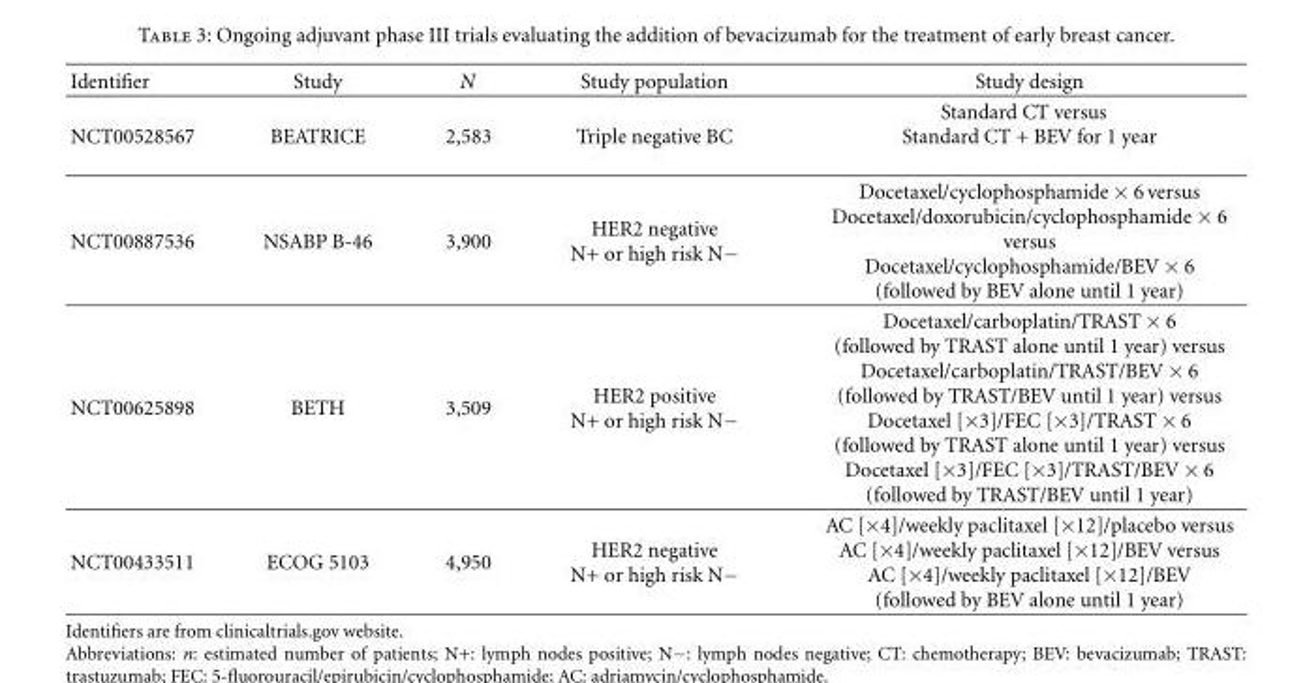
<table><thead><tr><td>Identifier</td><td>Study</td><td>N</td><td>Study population</td><td>Study design</td></tr></thead><tbody><tr><td>NCT00528567</td><td>BEATRICE</td><td>2,583</td><td>Triple negative BC</td><td>Standard CT versus Standard CT + BEV for 1 year</td></tr><tr><td>NCT00887536</td><td>NSABP B-46</td><td>3,900</td><td>HER2 negative N+ or high risk N−</td><td>Docetaxel/cyclophosphamide × 6 versus Docetaxel/doxorubicin/cyclophosphamide × 6 versus Docetaxel/cyclophosphamide/BEV × 6 (followed by BEV alone until 1 year)</td></tr><tr><td>NCT00625898</td><td>BETH</td><td>3,509</td><td>HER2 positive N+ or high risk N−</td><td>Docetaxel/carboplatin/TRAST × 6 (followed by TRAST alone until 1 year) versus Docetaxel/carboplatin/TRAST/BEV × 6 (followed by TRAST/BEV until 1 year) versus Docetaxel [×3]/FEC [×3]/TRAST × 6 (followed by TRAST alone until 1 year) versus Docetaxel [×3]/FEC [×3]/TRAST/BEV × 6 (followed by TRAST/BEV until 1 year)</td></tr><tr><td>NCT00433511</td><td>ECOG 5103</td><td>4,950</td><td>HER2 negative N+ or high risk N−</td><td>AC [×4]/weekly paclitaxel [×12]/placebo versus AC [×4]/weekly paclitaxel [×12]/BEV versus AC [×4]/weekly paclitaxel [×12]/BEV (followed by BEV alone until 1 year)</td></tr></tbody></table>